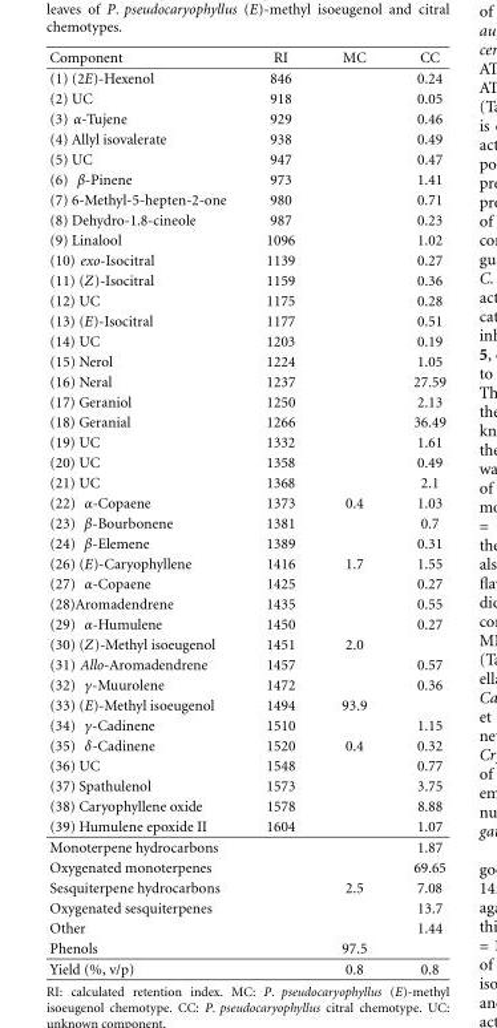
<table><thead><tr><td>Component</td><td>RI</td><td>MC</td><td>CC</td></tr></thead><tbody><tr><td>(1) (2E)-Hexenol</td><td>846</td><td></td><td>0.24</td></tr><tr><td>(2) UC</td><td>918</td><td></td><td>0.05</td></tr><tr><td>(3) α-Tujene</td><td>929</td><td></td><td>0.46</td></tr><tr><td>(4) Allyl isovalerate</td><td>938</td><td></td><td>0.49</td></tr><tr><td>(5) UC</td><td>947</td><td></td><td>0.47</td></tr><tr><td>(6) β-Pinene</td><td>973</td><td></td><td>1.41</td></tr><tr><td>(7) 6-Methyl-5-hepten-2-one</td><td>980</td><td></td><td>0.71</td></tr><tr><td>(8) Dehydro-1.8-cineole</td><td>987</td><td></td><td>0.23</td></tr><tr><td>(9) Linalool</td><td>1096</td><td></td><td>1.02</td></tr><tr><td>(10) exo-Isocitral</td><td>1139</td><td></td><td>0.27</td></tr><tr><td>(11) (Z)-Isocitral</td><td>1159</td><td></td><td>0.36</td></tr><tr><td>(12) UC</td><td>1175</td><td></td><td>0.28</td></tr><tr><td>(13) (E)-Isocitral</td><td>1177</td><td></td><td>0.51</td></tr><tr><td>(14) UC</td><td>1203</td><td></td><td>0.19</td></tr><tr><td>(15) Nerol</td><td>1224</td><td></td><td>1.05</td></tr><tr><td>(16) Neral</td><td>1237</td><td></td><td>27.59</td></tr><tr><td>(17) Geraniol</td><td>1250</td><td></td><td>2.13</td></tr><tr><td>(18) Geranial</td><td>1266</td><td></td><td>36.49</td></tr><tr><td>(19) UC</td><td>1332</td><td></td><td>1.61</td></tr><tr><td>(20) UC</td><td>1358</td><td></td><td>0.49</td></tr><tr><td>(21) UC</td><td>1368</td><td></td><td>2.1</td></tr><tr><td>(22) α-Copaene</td><td>1373</td><td>0.4</td><td>1.03</td></tr><tr><td>(23) β-Bourbonene</td><td>1381</td><td></td><td>0.7</td></tr><tr><td>(24) β-Elemene</td><td>1389</td><td></td><td>0.31</td></tr><tr><td>(26) (E)-Caryophyllene</td><td>1416</td><td>1.7</td><td>1.55</td></tr><tr><td>(27) α-Copaene</td><td>1425</td><td></td><td>0.27</td></tr><tr><td>(28)Aromadendrene</td><td>1435</td><td></td><td>0.55</td></tr><tr><td>(29) α-Humulene</td><td>1450</td><td></td><td>0.27</td></tr><tr><td>(30) (Z)-Methyl isoeugenol</td><td>1451</td><td>2.0</td><td></td></tr><tr><td>(31) Allo-Aromadendrene</td><td>1457</td><td></td><td>0.57</td></tr><tr><td>(32) γ-Muurolene</td><td>1472</td><td></td><td>0.36</td></tr><tr><td>(33) (E)-Methyl isoeugenol</td><td>1494</td><td>93.9</td><td></td></tr><tr><td>(34) γ-Cadinene</td><td>1510</td><td></td><td>1.15</td></tr><tr><td>(35) δ-Cadinene</td><td>1520</td><td>0.4</td><td>0.32</td></tr><tr><td>(36) UC</td><td>1548</td><td></td><td>0.77</td></tr><tr><td>(37) Spathulenol</td><td>1573</td><td></td><td>3.75</td></tr><tr><td>(38) Caryophyllene oxide</td><td>1578</td><td></td><td>8.88</td></tr><tr><td>(39) Humulene epoxide II</td><td>1604</td><td></td><td>1.07</td></tr><tr><td>Monoterpene hydrocarbons</td><td></td><td></td><td>1.87</td></tr><tr><td>Oxygenated monoterpenes</td><td></td><td></td><td>69.65</td></tr><tr><td>Sesquiterpene hydrocarbons</td><td></td><td>2.5</td><td>7.08</td></tr><tr><td>Oxygenated sesquiterpenes</td><td></td><td></td><td>13.7</td></tr><tr><td>Other</td><td></td><td></td><td>1.44</td></tr><tr><td>Phenols</td><td></td><td>97.5</td><td></td></tr><tr><td>Yield (%, v/p)</td><td></td><td>0.8</td><td>0.8</td></tr></tbody></table>